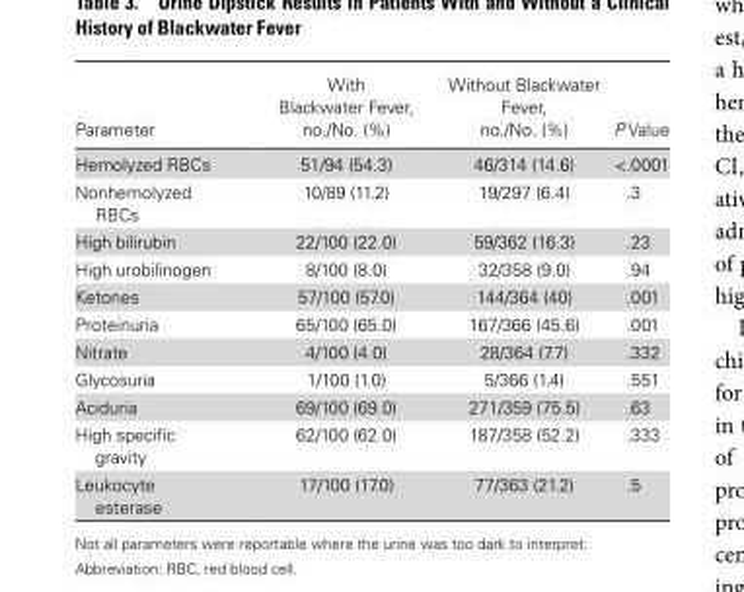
<table><thead><tr><td>Parameter</td><td>With Blackwater Fever, no./No. (%)</td><td>Without Blackwater Fever, no./No. (%)</td><td>P Value</td></tr></thead><tbody><tr><td>Hemolyzed RBCs</td><td>51/94 (54.3)</td><td>46/314 (14.6)</td><td>&lt;.0001</td></tr><tr><td>Nonhemolyzed RBCs</td><td>10/89 (11.2)</td><td>19/297 (6.4)</td><td>.3</td></tr><tr><td>High bilirubin</td><td>22/100 (22.0)</td><td>59/362 (16.3)</td><td>.23</td></tr><tr><td>High urobilinogen</td><td>8/100 (8.0)</td><td>32/358 (9.0)</td><td>.94</td></tr><tr><td>Ketones</td><td>57/100 (57.0)</td><td>144/364 (40)</td><td>.001</td></tr><tr><td>Proteinuria</td><td>65/100 (65.0)</td><td>167/366 (45.6)</td><td>.001</td></tr><tr><td>Nitrate</td><td>4/100 (4.0)</td><td>28/364 (7.7)</td><td>.332</td></tr><tr><td>Glycosuria</td><td>1/100 (1.0)</td><td>5/366 (1.4)</td><td>.551</td></tr><tr><td>Aciduria</td><td>69/100 (69.0)</td><td>271/359 (75.5)</td><td>.63</td></tr><tr><td>High specific gravity</td><td>62/100 (62.0)</td><td>187/358 (52.2)</td><td>.333</td></tr><tr><td>Leukocyte esterase</td><td>17/100 (17.0)</td><td>77/363 (21.2)</td><td>.5</td></tr></tbody></table>